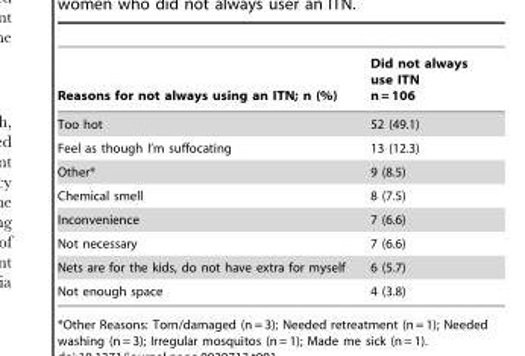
<table><thead><tr><td>Reasons for not always using an ITN; n (%)</td><td>Did not always use ITN n = 106</td></tr></thead><tbody><tr><td>Too hot</td><td>52 (49.1)</td></tr><tr><td>Feel as though I’m suffocating</td><td>13 (12.3)</td></tr><tr><td>Other*</td><td>9 (8.5)</td></tr><tr><td>Chemical smell</td><td>8 (7.5)</td></tr><tr><td>Inconvenience</td><td>7 (6.6)</td></tr><tr><td>Not necessary</td><td>7 (6.6)</td></tr><tr><td>Nets are for the kids, do not have extra for myself</td><td>6 (5.7)</td></tr><tr><td>Not enough space</td><td>4 (3.8)</td></tr></tbody></table>